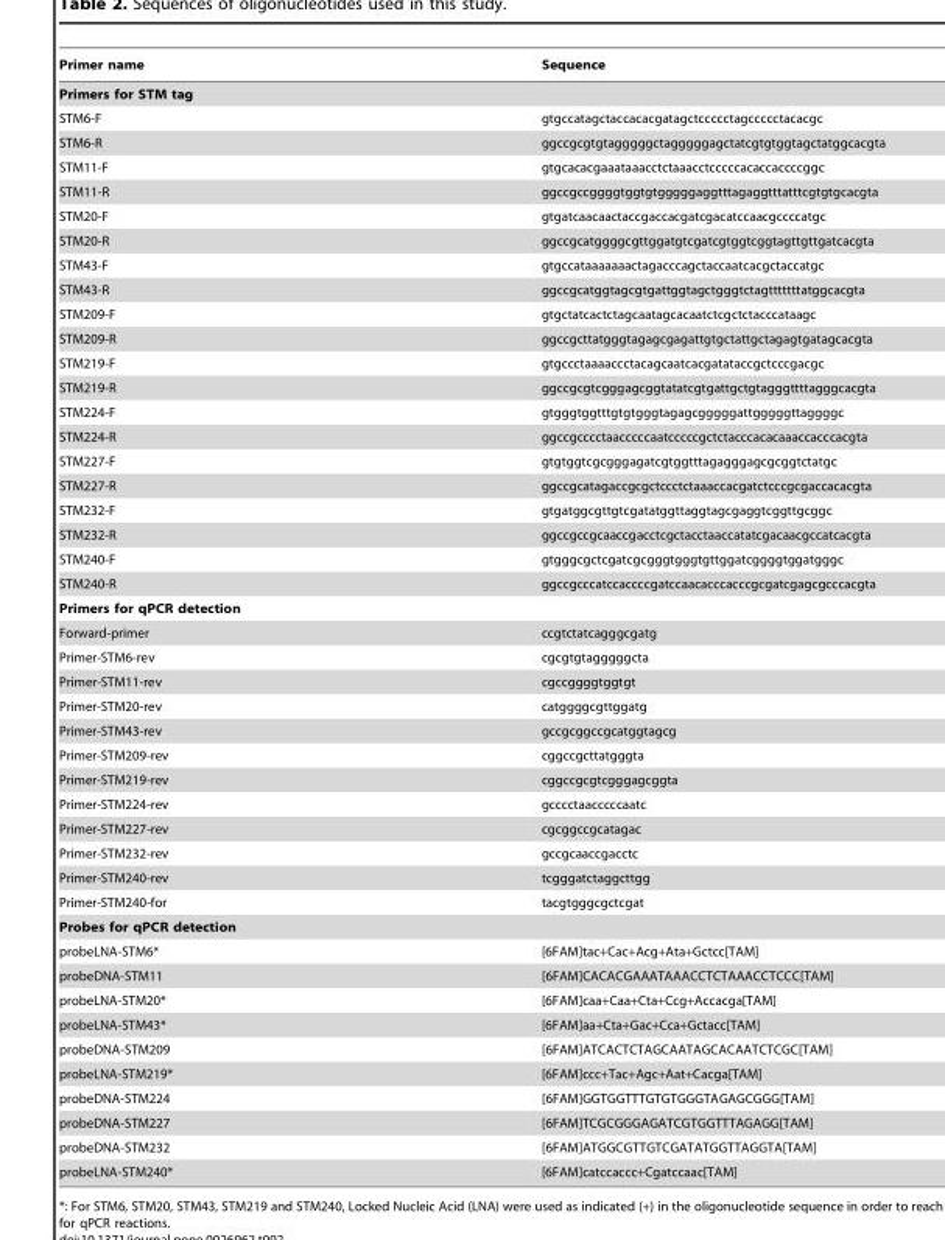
<table><thead><tr><td>Primer name</td><td>Sequence</td></tr></thead><tbody><tr><td colspan="2">Primers for STM tag</td></tr><tr><td>STM6-F</td><td>gtgccatagctaccacacgatagctccccctagccccctacacgc</td></tr><tr><td>STM6-R</td><td>ggccgcgtgtagggggctagggggagctatcgtgtggtagctatggcacgta</td></tr><tr><td>STM11-F</td><td>gtgcacacgaaataaacctctaaacctcccccacaccaccccggc</td></tr><tr><td>STM11-R</td><td>ggccgccggggtggtgtgggggaggtttagaggtttatttcgtgtgcacgta</td></tr><tr><td>STM20-F</td><td>gtgatcaacaactaccgaccacgatcgacatccaacgccccatgc</td></tr><tr><td>STM20-R</td><td>ggccgcatggggcgttggatgtcgatcgtggtcggtagttgttgatcacgta</td></tr><tr><td>STM43-F</td><td>gtgccataaaaaaactagacccagctaccaatcacgctaccatgc</td></tr><tr><td>STM43-R</td><td>ggccgcatggtagcgtgattggtagctgggtctagtttttttatggcacgta</td></tr><tr><td>STM209-F</td><td>gtgctatcactctagcaatagcacaatctcgctctacccataagc</td></tr><tr><td>STM209-R</td><td>ggccgcttatgggtagagcgagattgtgctattgctagagtgatagcacgta</td></tr><tr><td>STM219-F</td><td>gtgccctaaaaccctacagcaatcacgatataccgctcccgacgc</td></tr><tr><td>STM219-R</td><td>ggccgcgtcgggagcggtatatcgtgattgctgtagggttttagggcacgta</td></tr><tr><td>STM224-F</td><td>gtgggtggtttgtgtgggtagagcgggggattgggggttaggggc</td></tr><tr><td>STM224-R</td><td>ggccgcccctaacccccaatcccccgctctacccacacaaaccacccacgta</td></tr><tr><td>STM227-F</td><td>gtgtggtcgcgggagatcgtggtttagagggagcgcggtctatgc</td></tr><tr><td>STM227-R</td><td>ggccgcatagaccgcgctccctctaaaccacgatctcccgcgaccacacgta</td></tr><tr><td>STM232-F</td><td>gtgatggcgttgtcgatatggttaggtagcgaggtcggttgcggc</td></tr><tr><td>STM232-R</td><td>ggccgccgcaaccgacctcgctacctaaccatatcgacaacgccatcacgta</td></tr><tr><td>STM240-F</td><td>gtgggcgctcgatcgcgggtgggtgttggatcggggtggatgggc</td></tr><tr><td>STM240-R</td><td>ggccgcccatccaccccgatccaacacccacccgcgatcgagcgcccacgta</td></tr><tr><td colspan="2">Primers for qPCR detection</td></tr><tr><td>Forward-primer</td><td>ccgtctatcagggcgatg</td></tr><tr><td>Primer-STM6-rev</td><td>cgcgtgtagggggcta</td></tr><tr><td>Primer-STM11-rev</td><td>cgccggggtggtgt</td></tr><tr><td>Primer-STM20-rev</td><td>catggggcgttggatg</td></tr><tr><td>Primer-STM43-rev</td><td>gccgcggccgcatggtagcg</td></tr><tr><td>Primer-STM209-rev</td><td>cggccgcttatgggta</td></tr><tr><td>Primer-STM219-rev</td><td>cggccgcgtcgggagcggta</td></tr><tr><td>Primer-STM224-rev</td><td>gcccctaacccccaatc</td></tr><tr><td>Primer-STM227-rev</td><td>cgcggccgcatagac</td></tr><tr><td>Primer-STM232-rev</td><td>gccgcaaccgacctc</td></tr><tr><td>Primer-STM240-rev</td><td>tcgggatctaggcttgg</td></tr><tr><td>Primer-STM240-for</td><td>tacgtgggcgctcgat</td></tr><tr><td colspan="2">Probes for qPCR detection</td></tr><tr><td>probeLNA-STM6*</td><td>[6FAM]tac+Cac+Acg+Ata+Gctcc[TAM]</td></tr><tr><td>probeDNA-STM11</td><td>[6FAM]CACACGAAATAAACCTCTAAACCTCCC[TAM]</td></tr><tr><td>probeLNA-STM20*</td><td>[6FAM]caa+Caa+Cta+Ccg+Accacga[TAM]</td></tr><tr><td>probeLNA-STM43*</td><td>[6FAM]aa+Cta+Gac+Cca+Gctacc[TAM]</td></tr><tr><td>probeDNA-STM209</td><td>[6FAM]ATCACTCTAGCAATAGCACAATCTCGC[TAM]</td></tr><tr><td>probeLNA-STM219*</td><td>[6FAM]ccc+Tac+Agc+Aat+Cacga[TAM]</td></tr><tr><td>probeDNA-STM224</td><td>[6FAM]GGTGGTTTGTGTGGGTAGAGCGGG[TAM]</td></tr><tr><td>probeDNA-STM227</td><td>[6FAM]TCGCGGGAGATCGTGGTTTAGAGG[TAM]</td></tr><tr><td>probeDNA-STM232</td><td>[6FAM]ATGGCGTTGTCGATATGGTTAGGTA[TAM]</td></tr><tr><td>probeLNA-STM240*</td><td>[6FAM]catccaccc+Cgatccaac[TAM]</td></tr></tbody></table>